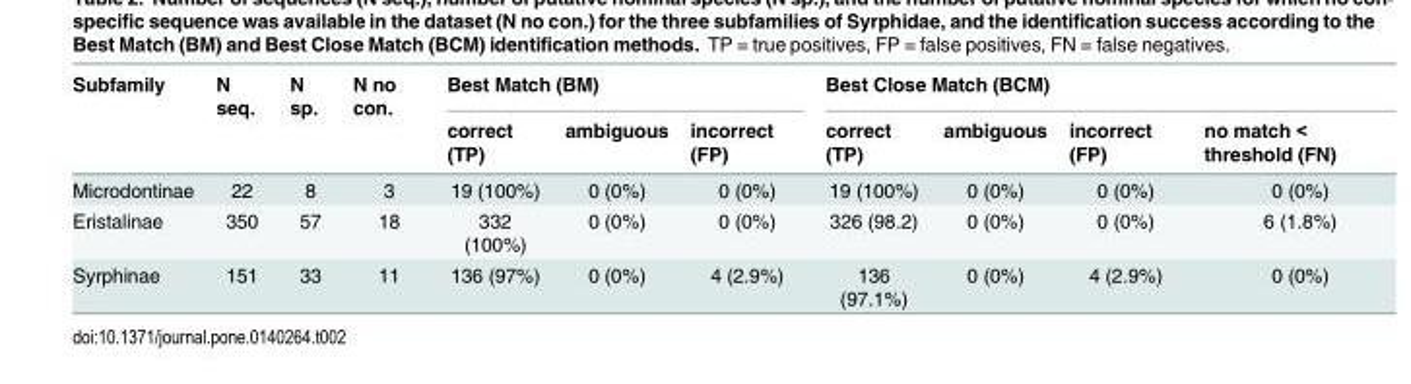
<table><thead><tr><td rowspan="2">Subfamily</td><td rowspan="2">N seq.</td><td rowspan="2">N sp.</td><td rowspan="2">N no con.</td><td colspan="3">Best Match (BM)</td><td colspan="4">Best Close Match (BCM)</td></tr><tr><td>correct (TP)</td><td>ambiguous</td><td>incorrect (FP)</td><td>correct (TP)</td><td>ambiguous</td><td>incorrect (FP)</td><td>no match &lt; threshold (FN)</td></tr></thead><tbody><tr><td>Microdontinae</td><td>22</td><td>8</td><td>3</td><td>19 (100%)</td><td>0 (0%)</td><td>0 (0%)</td><td>19 (100%)</td><td>0 (0%)</td><td>0 (0%)</td><td>0 (0%)</td></tr><tr><td>Eristalinae</td><td>350</td><td>57</td><td>18</td><td>332 (100%)</td><td>0 (0%)</td><td>0 (0%)</td><td>326 (98.2)</td><td>0 (0%)</td><td>0 (0%)</td><td>6 (1.8%)</td></tr><tr><td>Syrphinae</td><td>151</td><td>33</td><td>11</td><td>136 (97%)</td><td>0 (0%)</td><td>4 (2.9%)</td><td>136 (97.1%)</td><td>0 (0%)</td><td>4 (2.9%)</td><td>0 (0%)</td></tr></tbody></table>